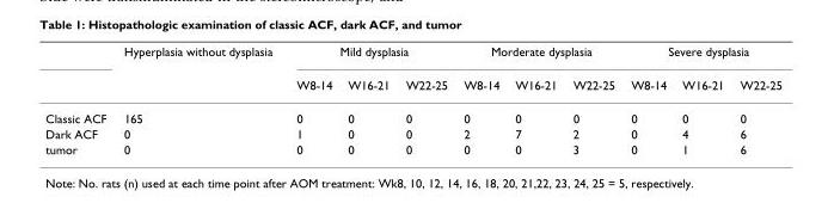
<table><thead><tr><td rowspan="2"></td><td rowspan="2">Hyperplasia without dysplasia</td><td colspan="3">Mild dysplasia</td><td colspan="3">Morderate dysplasia</td><td colspan="3">Severe dysplasia</td></tr><tr><td>W8-14</td><td>W16-21</td><td>W22-25</td><td>W8-14</td><td>W16-21</td><td>W22-25</td><td>W8-14</td><td>W16-21</td><td>W22-25</td></tr></thead><tbody><tr><td>Classic ACF</td><td>165</td><td>0</td><td>0</td><td>0</td><td>0</td><td>0</td><td>0</td><td>0</td><td>0</td><td>0</td></tr><tr><td>Dark ACF</td><td>0</td><td>1</td><td>0</td><td>0</td><td>2</td><td>7</td><td>2</td><td>0</td><td>4</td><td>6</td></tr><tr><td>tumor</td><td>0</td><td>0</td><td>0</td><td>0</td><td>0</td><td>0</td><td>3</td><td>0</td><td>1</td><td>6</td></tr></tbody></table>